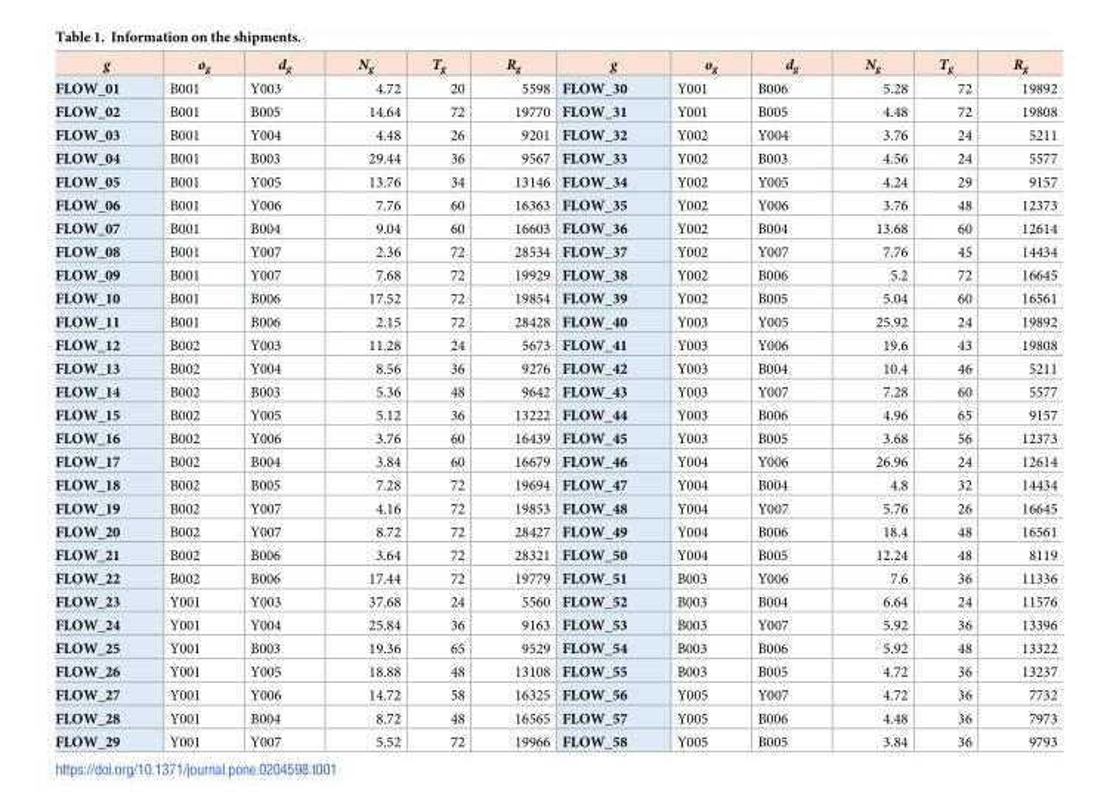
<table><thead><tr><td>g</td><td>o<sub>g</sub></td><td>d<sub>g</sub></td><td>N<sub>g</sub></td><td>T<sub>g</sub></td><td>R<sub>g</sub></td><td>g</td><td>o<sub>g</sub></td><td>d<sub>g</sub></td><td>N<sub>g</sub></td><td>T<sub>g</sub></td><td>R<sub>g</sub></td></tr></thead><tbody><tr><td>FLOW_01</td><td>B001</td><td>Y003</td><td>4.72</td><td>20</td><td>5598</td><td>FLOW_30</td><td>Y001</td><td>B006</td><td>5.28</td><td>72</td><td>19892</td></tr><tr><td>FLOW_02</td><td>B001</td><td>B005</td><td>14.64</td><td>72</td><td>19770</td><td>FLOW_31</td><td>Y001</td><td>B005</td><td>4.48</td><td>72</td><td>19808</td></tr><tr><td>FLOW_03</td><td>B001</td><td>Y004</td><td>4.48</td><td>26</td><td>9201</td><td>FLOW_32</td><td>Y002</td><td>Y004</td><td>3.76</td><td>24</td><td>5211</td></tr><tr><td>FLOW_04</td><td>B001</td><td>B003</td><td>29.44</td><td>36</td><td>9567</td><td>FLOW_33</td><td>Y002</td><td>B003</td><td>4.56</td><td>24</td><td>5577</td></tr><tr><td>FLOW_05</td><td>B001</td><td>Y005</td><td>13.76</td><td>34</td><td>13146</td><td>FLOW_34</td><td>Y002</td><td>Y005</td><td>4.24</td><td>29</td><td>9157</td></tr><tr><td>FLOW_06</td><td>B001</td><td>Y006</td><td>7.76</td><td>60</td><td>16363</td><td>FLOW_35</td><td>Y002</td><td>Y006</td><td>3.76</td><td>48</td><td>12373</td></tr><tr><td>FLOW_07</td><td>B001</td><td>B004</td><td>9.04</td><td>60</td><td>16603</td><td>FLOW_36</td><td>Y002</td><td>B004</td><td>13.68</td><td>60</td><td>12614</td></tr><tr><td>FLOW_08</td><td>B001</td><td>Y007</td><td>2.36</td><td>72</td><td>28534</td><td>FLOW_37</td><td>Y002</td><td>Y007</td><td>7.76</td><td>45</td><td>14434</td></tr><tr><td>FLOW_09</td><td>B001</td><td>Y007</td><td>7.68</td><td>72</td><td>19929</td><td>FLOW_38</td><td>Y002</td><td>B006</td><td>5.2</td><td>72</td><td>16645</td></tr><tr><td>FLOW_10</td><td>B001</td><td>B006</td><td>17.52</td><td>72</td><td>19854</td><td>FLOW_39</td><td>Y002</td><td>B005</td><td>5.04</td><td>60</td><td>16561</td></tr><tr><td>FLOW_11</td><td>B001</td><td>B006</td><td>2.15</td><td>72</td><td>28428</td><td>FLOW_40</td><td>Y003</td><td>Y005</td><td>25.92</td><td>24</td><td>19892</td></tr><tr><td>FLOW_12</td><td>B002</td><td>Y003</td><td>11.28</td><td>24</td><td>5673</td><td>FLOW_41</td><td>Y003</td><td>Y006</td><td>19.6</td><td>43</td><td>19808</td></tr><tr><td>FLOW_13</td><td>B002</td><td>Y004</td><td>8.56</td><td>36</td><td>9276</td><td>FLOW_42</td><td>Y003</td><td>B004</td><td>10.4</td><td>46</td><td>5211</td></tr><tr><td>FLOW_14</td><td>B002</td><td>B003</td><td>5.36</td><td>48</td><td>9642</td><td>FLOW_43</td><td>Y003</td><td>Y007</td><td>7.28</td><td>60</td><td>5577</td></tr><tr><td>FLOW_15</td><td>B002</td><td>Y005</td><td>5.12</td><td>36</td><td>13222</td><td>FLOW_44</td><td>Y003</td><td>B006</td><td>4.96</td><td>65</td><td>9157</td></tr><tr><td>FLOW_16</td><td>B002</td><td>Y006</td><td>3.76</td><td>60</td><td>16439</td><td>FLOW_45</td><td>Y003</td><td>B005</td><td>3.68</td><td>56</td><td>12373</td></tr><tr><td>FLOW_17</td><td>B002</td><td>B004</td><td>3.84</td><td>60</td><td>16679</td><td>FLOW_46</td><td>Y004</td><td>Y006</td><td>26.96</td><td>24</td><td>12614</td></tr><tr><td>FLOW_18</td><td>B002</td><td>B005</td><td>7.28</td><td>72</td><td>19694</td><td>FLOW_47</td><td>Y004</td><td>B004</td><td>4.8</td><td>32</td><td>14434</td></tr><tr><td>FLOW_19</td><td>B002</td><td>Y007</td><td>4.16</td><td>72</td><td>19853</td><td>FLOW_48</td><td>Y004</td><td>Y007</td><td>5.76</td><td>26</td><td>16645</td></tr><tr><td>FLOW_20</td><td>B002</td><td>Y007</td><td>8.72</td><td>72</td><td>28427</td><td>FLOW_49</td><td>Y004</td><td>B006</td><td>18.4</td><td>48</td><td>16561</td></tr><tr><td>FLOW_21</td><td>B002</td><td>B006</td><td>3.64</td><td>72</td><td>28321</td><td>FLOW_50</td><td>Y004</td><td>B005</td><td>12.24</td><td>48</td><td>8119</td></tr><tr><td>FLOW_22</td><td>B002</td><td>B006</td><td>17.44</td><td>72</td><td>19779</td><td>FLOW_51</td><td>B003</td><td>Y006</td><td>7.6</td><td>36</td><td>11336</td></tr><tr><td>FLOW_23</td><td>Y001</td><td>Y003</td><td>37.68</td><td>24</td><td>5560</td><td>FLOW_52</td><td>B003</td><td>B004</td><td>6.64</td><td>24</td><td>11576</td></tr><tr><td>FLOW_24</td><td>Y001</td><td>Y004</td><td>25.84</td><td>36</td><td>9163</td><td>FLOW_53</td><td>B003</td><td>Y007</td><td>5.92</td><td>36</td><td>13396</td></tr><tr><td>FLOW_25</td><td>Y001</td><td>B003</td><td>19.36</td><td>65</td><td>9529</td><td>FLOW_54</td><td>B003</td><td>B006</td><td>5.92</td><td>48</td><td>13322</td></tr><tr><td>FLOW_26</td><td>Y001</td><td>Y005</td><td>18.88</td><td>48</td><td>13108</td><td>FLOW_55</td><td>B003</td><td>B005</td><td>4.72</td><td>36</td><td>13237</td></tr><tr><td>FLOW_27</td><td>Y001</td><td>Y006</td><td>14.72</td><td>58</td><td>16325</td><td>FLOW_56</td><td>Y005</td><td>Y007</td><td>4.72</td><td>36</td><td>7732</td></tr><tr><td>FLOW_28</td><td>Y001</td><td>B004</td><td>8.72</td><td>48</td><td>16565</td><td>FLOW_57</td><td>Y005</td><td>B006</td><td>4.48</td><td>36</td><td>7973</td></tr><tr><td>FLOW_29</td><td>Y001</td><td>Y007</td><td>5.52</td><td>72</td><td>19966</td><td>FLOW_58</td><td>Y005</td><td>B005</td><td>3.84</td><td>36</td><td>9793</td></tr></tbody></table>